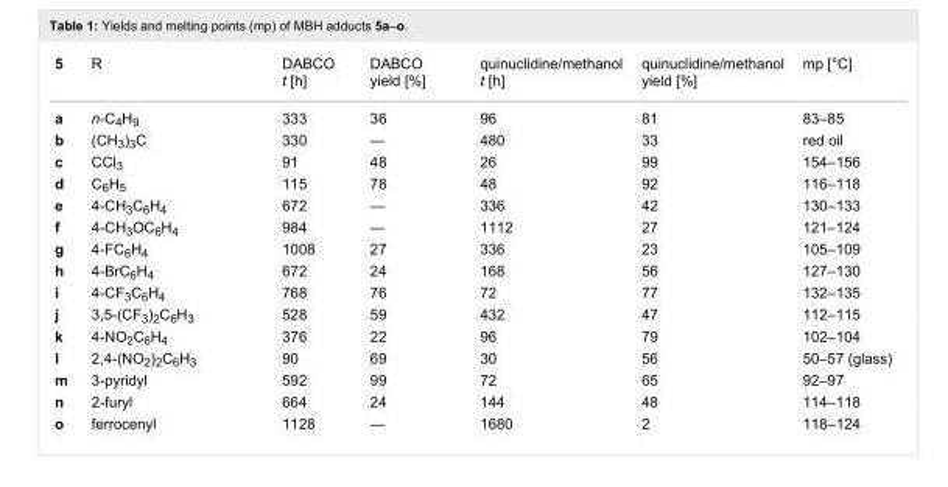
<table><tbody><tr><td>5</td><td>R</td><td>DABCO t [h]</td><td>DABCO yield [%]</td><td>quinuclidine/methanol t [h]</td><td>quinuclidine/methanol yield [%]</td><td>mp [°C]</td></tr><tr><td>a</td><td>n-C<sub>4</sub>H<sub>9</sub></td><td>333</td><td>36</td><td>96</td><td>81</td><td>83–85</td></tr><tr><td>b</td><td>(CH<sub>3</sub>)<sub>3</sub>C</td><td>330</td><td>—</td><td>480</td><td>33</td><td>red oil</td></tr><tr><td>c</td><td>CCl<sub>3</sub></td><td>91</td><td>48</td><td>26</td><td>99</td><td>154–156</td></tr><tr><td>d</td><td>C<sub>6</sub>H<sub>5</sub></td><td>115</td><td>78</td><td>48</td><td>92</td><td>116–118</td></tr><tr><td>e</td><td>4-CH<sub>3</sub>C<sub>6</sub>H<sub>4</sub></td><td>672</td><td>—</td><td>336</td><td>42</td><td>130–133</td></tr><tr><td>f</td><td>4-CH<sub>3</sub>OC<sub>6</sub>H<sub>4</sub></td><td>984</td><td>—</td><td>1112</td><td>27</td><td>121–124</td></tr><tr><td>g</td><td>4-FC<sub>6</sub>H<sub>4</sub></td><td>1008</td><td>27</td><td>336</td><td>23</td><td>105–109</td></tr><tr><td>h</td><td>4-BrC<sub>6</sub>H<sub>4</sub></td><td>672</td><td>24</td><td>168</td><td>56</td><td>127–130</td></tr><tr><td>i</td><td>4-CF<sub>3</sub>C<sub>6</sub>H<sub>4</sub></td><td>768</td><td>76</td><td>72</td><td>77</td><td>132–135</td></tr><tr><td>j</td><td>3,5-(CF<sub>3</sub>)<sub>2</sub>C<sub>6</sub>H<sub>3</sub></td><td>528</td><td>59</td><td>432</td><td>47</td><td>112–115</td></tr><tr><td>k</td><td>4-NO<sub>2</sub>C<sub>6</sub>H<sub>4</sub></td><td>376</td><td>22</td><td>96</td><td>79</td><td>102–104</td></tr><tr><td>l</td><td>2,4-(NO<sub>2</sub>)<sub>2</sub>C<sub>6</sub>H<sub>3</sub></td><td>90</td><td>69</td><td>30</td><td>56</td><td>50–57 (glass)</td></tr><tr><td>m</td><td>3-pyridyl</td><td>592</td><td>99</td><td>72</td><td>65</td><td>92–97</td></tr><tr><td>n</td><td>2-furyl</td><td>664</td><td>24</td><td>144</td><td>48</td><td>114–118</td></tr><tr><td>o</td><td>ferrocenyl</td><td>1128</td><td>—</td><td>1680</td><td>2</td><td>118–124</td></tr></tbody></table>